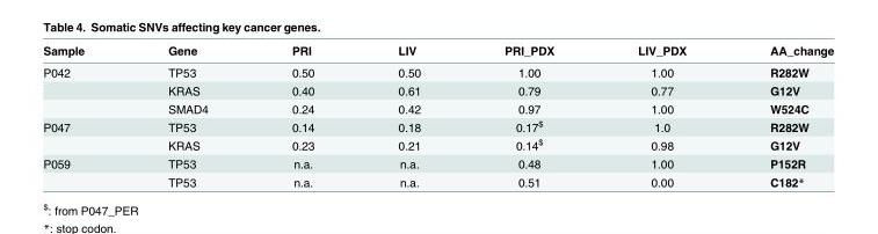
<table><thead><tr><td>Sample</td><td>Gene</td><td>PRI</td><td>LIV</td><td>PRI_PDX</td><td>LIV_PDX</td><td>AA_change</td></tr></thead><tbody><tr><td rowspan="3">P042</td><td>TP53</td><td>0.50</td><td>0.50</td><td>1.00</td><td>1.00</td><td>R282W</td></tr><tr><td>KRAS</td><td>0.40</td><td>0.61</td><td>0.79</td><td>0.77</td><td>G12V</td></tr><tr><td>SMAD4</td><td>0.24</td><td>0.42</td><td>0.97</td><td>1.00</td><td>W524C</td></tr><tr><td rowspan="2">P047</td><td>TP53</td><td>0.14</td><td>0.18</td><td>0.17<sup>$</sup></td><td>1.0</td><td>R282W</td></tr><tr><td>KRAS</td><td>0.23</td><td>0.21</td><td>0.14<sup>$</sup></td><td>0.98</td><td>G12V</td></tr><tr><td rowspan="2">P059</td><td>TP53</td><td>n.a.</td><td>n.a.</td><td>0.48</td><td>1.00</td><td>P152R</td></tr><tr><td>TP53</td><td>n.a.</td><td>n.a.</td><td>0.51</td><td>0.00</td><td>C182*</td></tr></tbody></table>